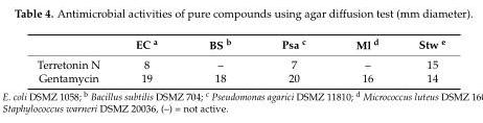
<table><thead><tr><td></td><td>EC <sup>a</sup></td><td>BS <sup>b</sup></td><td>Psa <sup>c</sup></td><td>Ml <sup>d</sup></td><td>Stw <sup>e</sup></td></tr></thead><tbody><tr><td>Terretonin N</td><td>8</td><td>–</td><td>7</td><td>–</td><td>15</td></tr><tr><td>Gentamycin</td><td>19</td><td>18</td><td>20</td><td>16</td><td>14</td></tr></tbody></table>